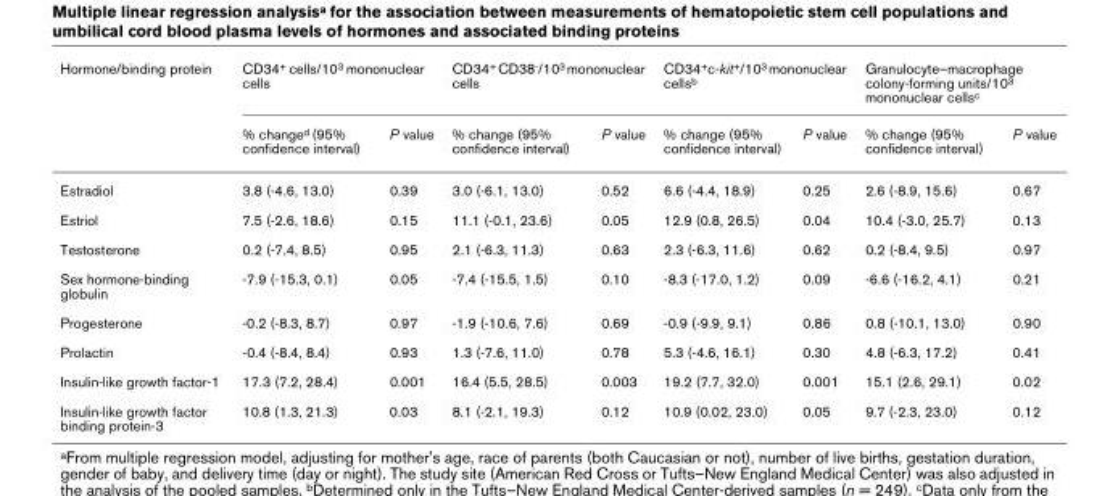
<table><thead><tr><td rowspan="2">Hormone/binding protein</td><td colspan="2">CD34<sup>+</sup> cells/10<sup>3</sup> mononuclear cells</td><td colspan="2">CD34<sup>+</sup> CD38<sup>-</sup>/10<sup>3</sup> mononuclear cells</td><td colspan="2">CD34<sup>+</sup>c-kit<sup>+</sup>/10<sup>3</sup> mononuclear cells<sup>b</sup></td><td colspan="2">Granulocyte–macrophage colony-forming units/10<sup>3</sup> mononuclear cells<sup>c</sup></td></tr><tr><td>% change<sup>d</sup> (95% confidence interval)</td><td>P value</td><td>% change (95% confidence interval)</td><td>P value</td><td>% change (95% confidence interval)</td><td>P value</td><td>% change (95% confidence interval)</td><td>P value</td></tr></thead><tbody><tr><td>Estradiol</td><td>3.8 (-4.6, 13.0)</td><td>0.39</td><td>3.0 (-6.1, 13.0)</td><td>0.52</td><td>6.6 (-4.4, 18.9)</td><td>0.25</td><td>2.6 (-8.9, 15.6)</td><td>0.67</td></tr><tr><td>Estriol</td><td>7.5 (-2.6, 18.6)</td><td>0.15</td><td>11.1 (-0.1, 23.6)</td><td>0.05</td><td>12.9 (0.8, 26.5)</td><td>0.04</td><td>10.4 (-3.0, 25.7)</td><td>0.13</td></tr><tr><td>Testosterone</td><td>0.2 (-7.4, 8.5)</td><td>0.95</td><td>2.1 (-6.3, 11.3)</td><td>0.63</td><td>2.3 (-6.3, 11.6)</td><td>0.62</td><td>0.2 (-8.4, 9.5)</td><td>0.97</td></tr><tr><td>Sex hormone-binding globulin</td><td>-7.9 (-15.3, 0.1)</td><td>0.05</td><td>-7.4 (-15.5, 1.5)</td><td>0.10</td><td>-8.3 (-17.0, 1.2)</td><td>0.09</td><td>-6.6 (-16.2, 4.1)</td><td>0.21</td></tr><tr><td>Progesterone</td><td>-0.2 (-8.3, 8.7)</td><td>0.97</td><td>-1.9 (-10.6, 7.6)</td><td>0.69</td><td>-0.9 (-9.9, 9.1)</td><td>0.86</td><td>0.8 (-10.1, 13.0)</td><td>0.90</td></tr><tr><td>Prolactin</td><td>-0.4 (-8.4, 8.4)</td><td>0.93</td><td>1.3 (-7.6, 11.0)</td><td>0.78</td><td>5.3 (-4.6, 16.1)</td><td>0.30</td><td>4.8 (-6.3, 17.2)</td><td>0.41</td></tr><tr><td>Insulin-like growth factor-1</td><td>17.3 (7.2, 28.4)</td><td>0.001</td><td>16.4 (5.5, 28.5)</td><td>0.003</td><td>19.2 (7.7, 32.0)</td><td>0.001</td><td>15.1 (2.6, 29.1)</td><td>0.02</td></tr><tr><td>Insulin-like growth factor binding protein-3</td><td>10.8 (1.3, 21.3)</td><td>0.03</td><td>8.1 (-2.1, 19.3)</td><td>0.12</td><td>10.9 (0.02, 23.0)</td><td>0.05</td><td>9.7 (-2.3, 23.0)</td><td>0.12</td></tr></tbody></table>